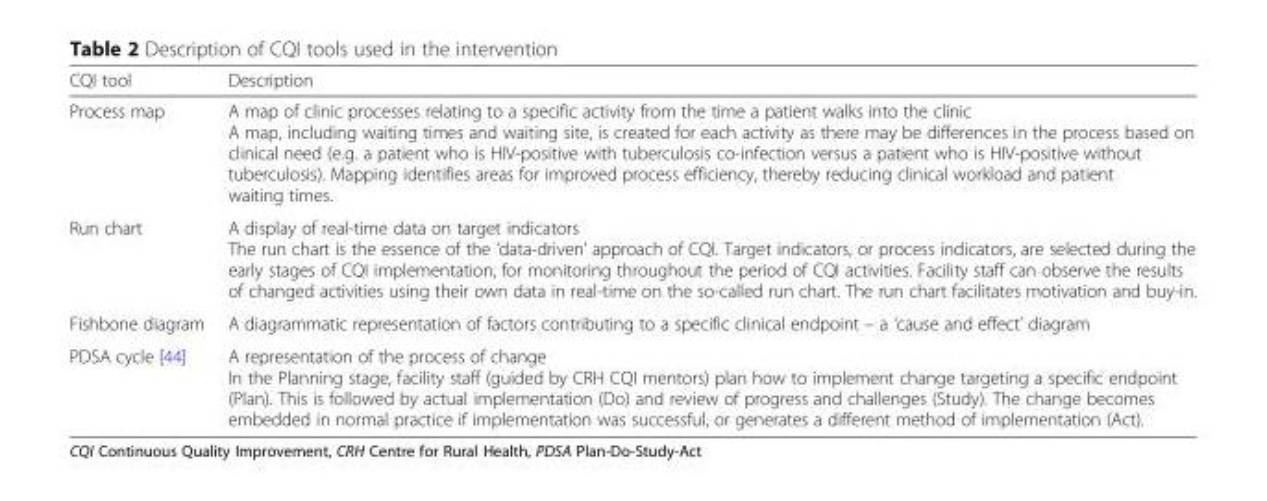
<table><thead><tr><td>CQI tool</td><td>Description</td></tr></thead><tbody><tr><td>Process map</td><td>A map of clinic processes relating to a specific activity from the time a patient walks into the clinic A map, including waiting times and waiting site, is created for each activity as there may be differences in the process based on clinical need (e.g. a patient who is HIV-positive with tuberculosis co-infection versus a patient who is HIV-positive without tuberculosis). Mapping identifies areas for improved process efficiency, thereby reducing clinical workload and patient waiting times.</td></tr><tr><td>Run chart</td><td>A display of real-time data on target indicators The run chart is the essence of the ‘data-driven’ approach of CQI. Target indicators, or process indicators, are selected during the early stages of CQI implementation, for monitoring throughout the period of CQI activities. Facility staff can observe the results of changed activities using their own data in real-time on the so-called run chart. The run chart facilitates motivation and buy-in.</td></tr><tr><td>Fishbone diagram</td><td>A diagrammatic representation of factors contributing to a specific clinical endpoint – a ‘cause and effect’ diagram</td></tr><tr><td>PDSA cycle [44]</td><td>A representation of the process of change In the Planning stage, facility staff (guided by CRH CQI mentors) plan how to implement change targeting a specific endpoint (Plan). This is followed by actual implementation (Do) and review of progress and challenges (Study). The change becomes embedded in normal practice if implementation was successful, or generates a different method of implementation (Act).</td></tr></tbody></table>